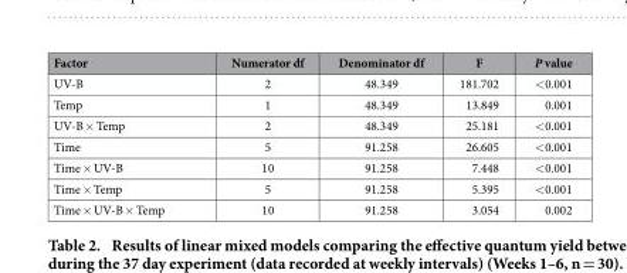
<table><thead><tr><td>Factor</td><td>Numerator df</td><td>Denominator df</td><td>F</td><td>P value</td></tr></thead><tbody><tr><td>UV-B</td><td>2</td><td>48.349</td><td>181.702</td><td>&lt; 0.001</td></tr><tr><td>Temp</td><td>1</td><td>48.349</td><td>13.849</td><td>0.001</td></tr><tr><td>UV-B × Temp</td><td>2</td><td>48.349</td><td>25.181</td><td>&lt; 0.001</td></tr><tr><td>Time</td><td>5</td><td>91.258</td><td>26.605</td><td>&lt; 0.001</td></tr><tr><td>Time × UV-B</td><td>10</td><td>91.258</td><td>7.448</td><td>&lt; 0.001</td></tr><tr><td>Time × Temp</td><td>5</td><td>91.258</td><td>5.395</td><td>&lt; 0.001</td></tr><tr><td>Time × UV-B × Temp</td><td>10</td><td>91.258</td><td>3.054</td><td>0.002</td></tr></tbody></table>